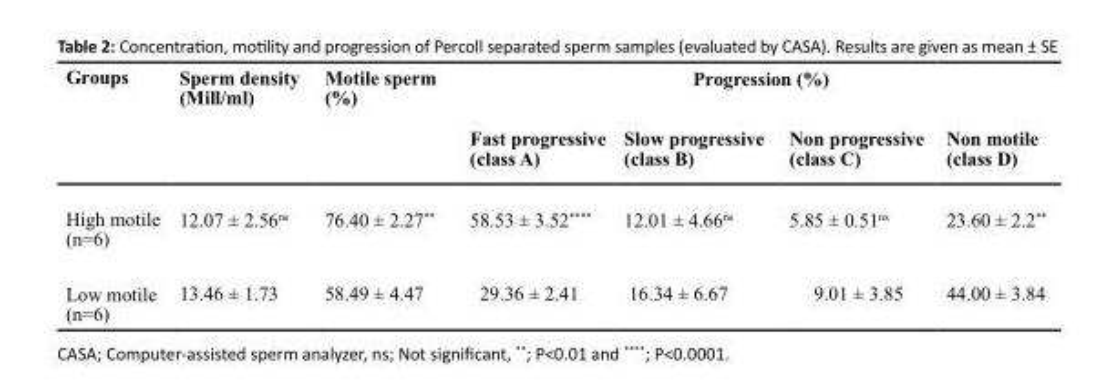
<table><thead><tr><td rowspan="2">Groups</td><td rowspan="2">Sperm density (Mill/ml)</td><td rowspan="2">Motile sperm (%)</td><td colspan="4">Progression (%)</td></tr><tr><td>Fast progressive (class A)</td><td>Slow progressive (class B)</td><td>Non progressive (class C)</td><td>Non motile (class D)</td></tr></thead><tbody><tr><td>High motile (n=6)</td><td>12.07 ± 2.56<sup>ns</sup></td><td>76.40 ± 2.27**</td><td>58.53 ± 3.52****</td><td>12.01 ± 4.66<sup>ns</sup></td><td>5.85 ± 0.51<sup>ns</sup></td><td>23.60 ± 2.2**</td></tr><tr><td>Low motile (n=6)</td><td>13.46 ± 1.73</td><td>58.49 ± 4.47</td><td>29.36 ± 2.41</td><td>16.34 ± 6.67</td><td>9.01 ± 3.85</td><td>44.00 ± 3.84</td></tr></tbody></table>